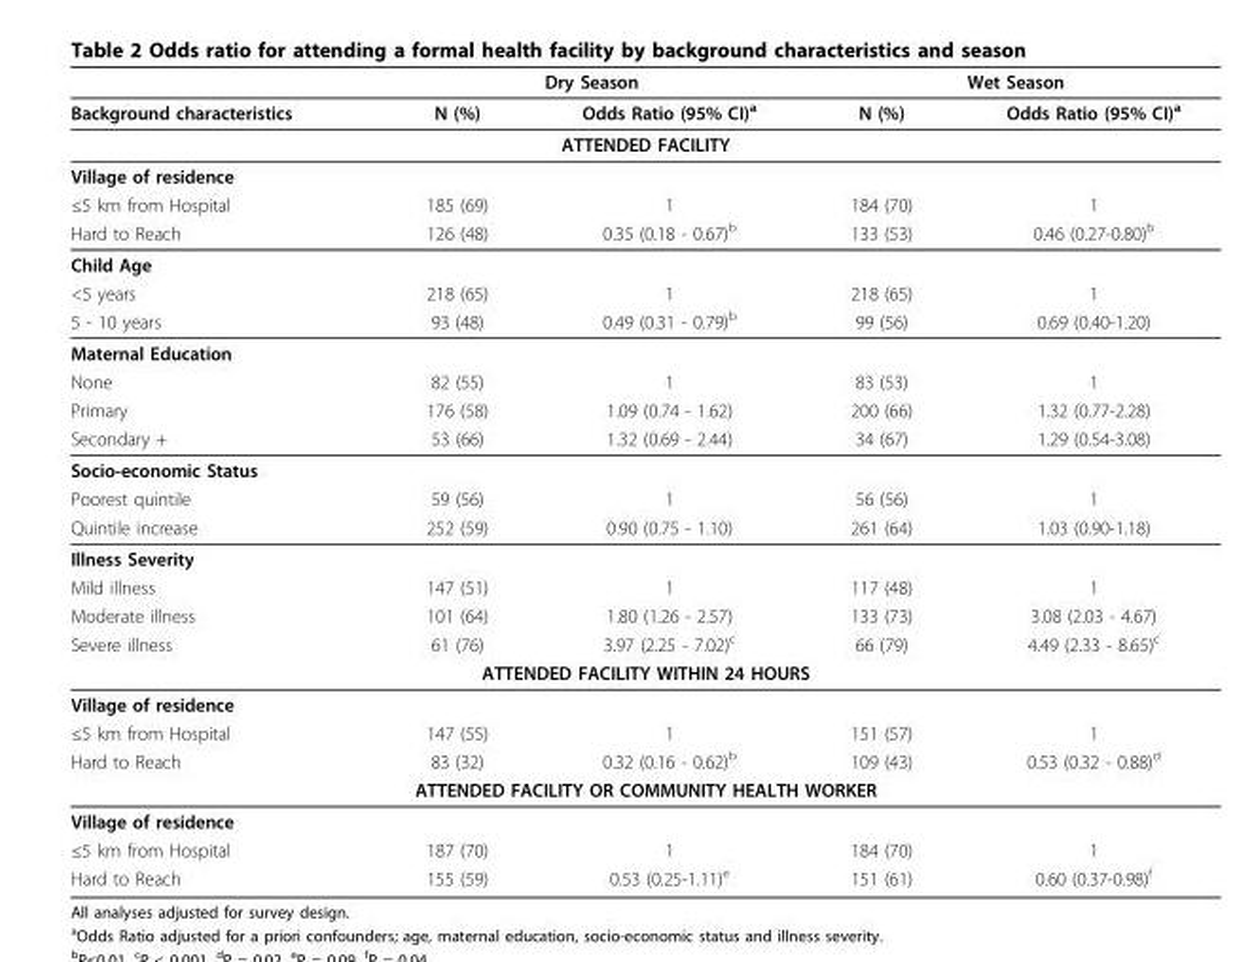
<table><thead><tr><td rowspan="2">Background characteristics</td><td colspan="2">Dry Season</td><td colspan="2">Wet Season</td></tr><tr><td>N (%)</td><td>Odds Ratio (95% CI)<sup>a</sup></td><td>N (%)</td><td>Odds Ratio (95% CI)<sup>a</sup></td></tr></thead><tbody><tr><td colspan="5">ATTENDED FACILITY</td></tr><tr><td colspan="5">Village of residence</td></tr><tr><td>≤5 km from Hospital</td><td>185 (69)</td><td>1</td><td>184 (70)</td><td>1</td></tr><tr><td>Hard to Reach</td><td>126 (48)</td><td>0.35 (0.18 - 0.67)<sup>b</sup></td><td>133 (53)</td><td>0.46 (0.27-0.80)<sup>b</sup></td></tr><tr><td colspan="5">Child Age</td></tr><tr><td>&lt;5 years</td><td>218 (65)</td><td>1</td><td>218 (65)</td><td>1</td></tr><tr><td>5 - 10 years</td><td>93 (48)</td><td>0.49 (0.31 - 0.79)<sup>b</sup></td><td>99 (56)</td><td>0.69 (0.40-1.20)</td></tr><tr><td colspan="5">Maternal Education</td></tr><tr><td>None</td><td>82 (55)</td><td>1</td><td>83 (53)</td><td>1</td></tr><tr><td>Primary</td><td>176 (58)</td><td>1.09 (0.74 - 1.62)</td><td>200 (66)</td><td>1.32 (0.77-2.28)</td></tr><tr><td>Secondary +</td><td>53 (66)</td><td>1.32 (0.69 - 2.44)</td><td>34 (67)</td><td>1.29 (0.54-3.08)</td></tr><tr><td colspan="5">Socio-economic Status</td></tr><tr><td>Poorest quintile</td><td>59 (56)</td><td>1</td><td>56 (56)</td><td>1</td></tr><tr><td>Quintile increase</td><td>252 (59)</td><td>0.90 (0.75 - 1.10)</td><td>261 (64)</td><td>1.03 (0.90-1.18)</td></tr><tr><td colspan="5">Illness Severity</td></tr><tr><td>Mild illness</td><td>147 (51)</td><td>1</td><td>117 (48)</td><td>1</td></tr><tr><td>Moderate illness</td><td>101 (64)</td><td>1.80 (1.26 - 2.57)</td><td>133 (73)</td><td>3.08 (2.03 - 4.67)</td></tr><tr><td>Severe illness</td><td>61 (76)</td><td>3.97 (2.25 - 7.02)<sup>c</sup></td><td>66 (79)</td><td>4.49 (2.33 - 8.65)<sup>c</sup></td></tr><tr><td colspan="5">ATTENDED FACILITY WITHIN 24 HOURS</td></tr><tr><td colspan="5">Village of residence</td></tr><tr><td>≤5 km from Hospital</td><td>147 (55)</td><td>1</td><td>151 (57)</td><td>1</td></tr><tr><td>Hard to Reach</td><td>83 (32)</td><td>0.32 (0.16 - 0.62)<sup>b</sup></td><td>109 (43)</td><td>0.53 (0.32 - 0.88)<sup>d</sup></td></tr><tr><td colspan="5">ATTENDED FACILITY OR COMMUNITY HEALTH WORKER</td></tr><tr><td colspan="5">Village of residence</td></tr><tr><td>≤5 km from Hospital</td><td>187 (70)</td><td>1</td><td>184 (70)</td><td>1</td></tr><tr><td>Hard to Reach</td><td>155 (59)</td><td>0.53 (0.25-1.11)<sup>e</sup></td><td>151 (61)</td><td>0.60 (0.37-0.98)<sup>f</sup></td></tr></tbody></table>